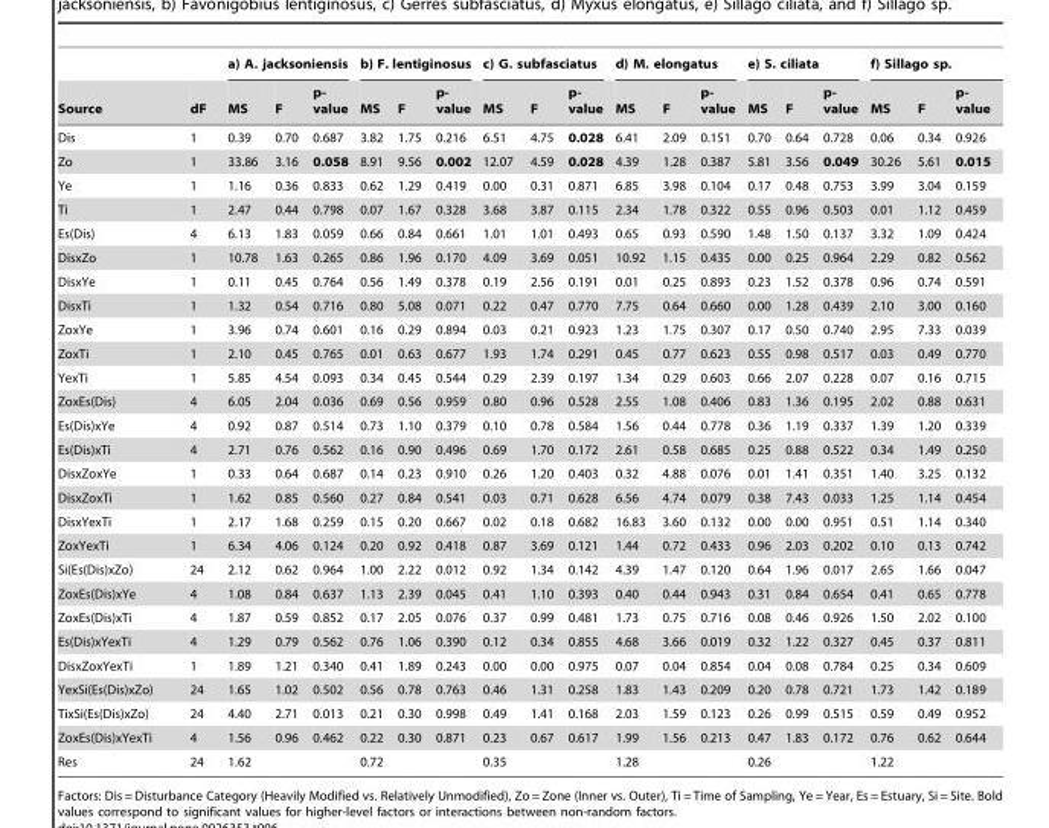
<table><thead><tr><td rowspan="2">Source</td><td rowspan="2">dF</td><td colspan="3">a) A. jacksoniensis</td><td colspan="3">b) F. lentiginosus</td><td colspan="3">c) G. subfasciatus</td><td colspan="3">d) M. elongatus</td><td colspan="3">e) S. ciliata</td><td colspan="3">f) Sillago sp.</td></tr><tr><td>MS</td><td>F</td><td>p- value</td><td>MS</td><td>F</td><td>p- value</td><td>MS</td><td>F</td><td>p- value</td><td>MS</td><td>F</td><td>p- value</td><td>MS</td><td>F</td><td>p- value</td><td>MS</td><td>F</td><td>p- value</td></tr></thead><tbody><tr><td>Dis</td><td>1</td><td>0.39</td><td>0.70</td><td>0.687</td><td>3.82</td><td>1.75</td><td>0.216</td><td>6.51</td><td>4.75</td><td>0.028</td><td>6.41</td><td>2.09</td><td>0.151</td><td>0.70</td><td>0.64</td><td>0.728</td><td>0.06</td><td>0.34</td><td>0.926</td></tr><tr><td>Zo</td><td>1</td><td>33.86</td><td>3.16</td><td>0.058</td><td>8.91</td><td>9.56</td><td>0.002</td><td>12.07</td><td>4.59</td><td>0.028</td><td>4.39</td><td>1.28</td><td>0.387</td><td>5.81</td><td>3.56</td><td>0.049</td><td>30.26</td><td>5.61</td><td>0.015</td></tr><tr><td>Ye</td><td>1</td><td>1.16</td><td>0.36</td><td>0.833</td><td>0.62</td><td>1.29</td><td>0.419</td><td>0.00</td><td>0.31</td><td>0.871</td><td>6.85</td><td>3.98</td><td>0.104</td><td>0.17</td><td>0.48</td><td>0.753</td><td>3.99</td><td>3.04</td><td>0.159</td></tr><tr><td>Ti</td><td>1</td><td>2.47</td><td>0.44</td><td>0.798</td><td>0.07</td><td>1.67</td><td>0.328</td><td>3.68</td><td>3.87</td><td>0.115</td><td>2.34</td><td>1.78</td><td>0.322</td><td>0.55</td><td>0.96</td><td>0.503</td><td>0.01</td><td>1.12</td><td>0.459</td></tr><tr><td>Es(Dis)</td><td>4</td><td>6.13</td><td>1.83</td><td>0.059</td><td>0.66</td><td>0.84</td><td>0.661</td><td>1.01</td><td>1.01</td><td>0.493</td><td>0.65</td><td>0.93</td><td>0.590</td><td>1.48</td><td>1.50</td><td>0.137</td><td>3.32</td><td>1.09</td><td>0.424</td></tr><tr><td>DisxZo</td><td>1</td><td>10.78</td><td>1.63</td><td>0.265</td><td>0.86</td><td>1.96</td><td>0.170</td><td>4.09</td><td>3.69</td><td>0.051</td><td>10.92</td><td>1.15</td><td>0.435</td><td>0.00</td><td>0.25</td><td>0.964</td><td>2.29</td><td>0.82</td><td>0.562</td></tr><tr><td>DisxYe</td><td>1</td><td>0.11</td><td>0.45</td><td>0.764</td><td>0.56</td><td>1.49</td><td>0.378</td><td>0.19</td><td>2.56</td><td>0.191</td><td>0.01</td><td>0.25</td><td>0.893</td><td>0.23</td><td>1.52</td><td>0.378</td><td>0.96</td><td>0.74</td><td>0.591</td></tr><tr><td>DisxTi</td><td>1</td><td>1.32</td><td>0.54</td><td>0.716</td><td>0.80</td><td>5.08</td><td>0.071</td><td>0.22</td><td>0.47</td><td>0.770</td><td>7.75</td><td>0.64</td><td>0.660</td><td>0.00</td><td>1.28</td><td>0.439</td><td>2.10</td><td>3.00</td><td>0.160</td></tr><tr><td>ZoxYe</td><td>1</td><td>3.96</td><td>0.74</td><td>0.601</td><td>0.16</td><td>0.29</td><td>0.894</td><td>0.03</td><td>0.21</td><td>0.923</td><td>1.23</td><td>1.75</td><td>0.307</td><td>0.17</td><td>0.50</td><td>0.740</td><td>2.95</td><td>7.33</td><td>0.039</td></tr><tr><td>ZoxTi</td><td>1</td><td>2.10</td><td>0.45</td><td>0.765</td><td>0.01</td><td>0.63</td><td>0.677</td><td>1.93</td><td>1.74</td><td>0.291</td><td>0.45</td><td>0.77</td><td>0.623</td><td>0.55</td><td>0.98</td><td>0.517</td><td>0.03</td><td>0.49</td><td>0.770</td></tr><tr><td>YexTi</td><td>1</td><td>5.85</td><td>4.54</td><td>0.093</td><td>0.34</td><td>0.45</td><td>0.544</td><td>0.29</td><td>2.39</td><td>0.197</td><td>1.34</td><td>0.29</td><td>0.603</td><td>0.66</td><td>2.07</td><td>0.228</td><td>0.07</td><td>0.16</td><td>0.715</td></tr><tr><td>ZoxEs(Dis)</td><td>4</td><td>6.05</td><td>2.04</td><td>0.036</td><td>0.69</td><td>0.56</td><td>0.959</td><td>0.80</td><td>0.96</td><td>0.528</td><td>2.55</td><td>1.08</td><td>0.406</td><td>0.83</td><td>1.36</td><td>0.195</td><td>2.02</td><td>0.88</td><td>0.631</td></tr><tr><td>Es(Dis)xYe</td><td>4</td><td>0.92</td><td>0.87</td><td>0.514</td><td>0.73</td><td>1.10</td><td>0.379</td><td>0.10</td><td>0.78</td><td>0.584</td><td>1.56</td><td>0.44</td><td>0.778</td><td>0.36</td><td>1.19</td><td>0.337</td><td>1.39</td><td>1.20</td><td>0.339</td></tr><tr><td>Es(Dis)xTi</td><td>4</td><td>2.71</td><td>0.76</td><td>0.562</td><td>0.16</td><td>0.90</td><td>0.496</td><td>0.69</td><td>1.70</td><td>0.172</td><td>2.61</td><td>0.58</td><td>0.685</td><td>0.25</td><td>0.88</td><td>0.522</td><td>0.34</td><td>1.49</td><td>0.250</td></tr><tr><td>DisxZoxYe</td><td>1</td><td>0.33</td><td>0.64</td><td>0.687</td><td>0.14</td><td>0.23</td><td>0.910</td><td>0.26</td><td>1.20</td><td>0.403</td><td>0.32</td><td>4.88</td><td>0.076</td><td>0.01</td><td>1.41</td><td>0.351</td><td>1.40</td><td>3.25</td><td>0.132</td></tr><tr><td>DisxZoxTi</td><td>1</td><td>1.62</td><td>0.85</td><td>0.560</td><td>0.27</td><td>0.84</td><td>0.541</td><td>0.03</td><td>0.71</td><td>0.628</td><td>6.56</td><td>4.74</td><td>0.079</td><td>0.38</td><td>7.43</td><td>0.033</td><td>1.25</td><td>1.14</td><td>0.454</td></tr><tr><td>DisxYexTi</td><td>1</td><td>2.17</td><td>1.68</td><td>0.259</td><td>0.15</td><td>0.20</td><td>0.667</td><td>0.02</td><td>0.18</td><td>0.682</td><td>16.83</td><td>3.60</td><td>0.132</td><td>0.00</td><td>0.00</td><td>0.951</td><td>0.51</td><td>1.14</td><td>0.340</td></tr><tr><td>ZoxYexTi</td><td>1</td><td>6.34</td><td>4.06</td><td>0.124</td><td>0.20</td><td>0.92</td><td>0.418</td><td>0.87</td><td>3.69</td><td>0.121</td><td>1.44</td><td>0.72</td><td>0.433</td><td>0.96</td><td>2.03</td><td>0.202</td><td>0.10</td><td>0.13</td><td>0.742</td></tr><tr><td>Si(Es(Dis)xZo)</td><td>24</td><td>2.12</td><td>0.62</td><td>0.964</td><td>1.00</td><td>2.22</td><td>0.012</td><td>0.92</td><td>1.34</td><td>0.142</td><td>4.39</td><td>1.47</td><td>0.120</td><td>0.64</td><td>1.96</td><td>0.017</td><td>2.65</td><td>1.66</td><td>0.047</td></tr><tr><td>ZoxEs(Dis)xYe</td><td>4</td><td>1.08</td><td>0.84</td><td>0.637</td><td>1.13</td><td>2.39</td><td>0.045</td><td>0.41</td><td>1.10</td><td>0.393</td><td>0.40</td><td>0.44</td><td>0.943</td><td>0.31</td><td>0.84</td><td>0.654</td><td>0.41</td><td>0.65</td><td>0.778</td></tr><tr><td>ZoxEs(Dis)xTi</td><td>4</td><td>1.87</td><td>0.59</td><td>0.852</td><td>0.17</td><td>2.05</td><td>0.076</td><td>0.37</td><td>0.99</td><td>0.481</td><td>1.73</td><td>0.75</td><td>0.716</td><td>0.08</td><td>0.46</td><td>0.926</td><td>1.50</td><td>2.02</td><td>0.100</td></tr><tr><td>Es(Dis)xYexTi</td><td>4</td><td>1.29</td><td>0.79</td><td>0.562</td><td>0.76</td><td>1.06</td><td>0.390</td><td>0.12</td><td>0.34</td><td>0.855</td><td>4.68</td><td>3.66</td><td>0.019</td><td>0.32</td><td>1.22</td><td>0.327</td><td>0.45</td><td>0.37</td><td>0.811</td></tr><tr><td>DisxZoxYexTi</td><td>1</td><td>1.89</td><td>1.21</td><td>0.340</td><td>0.41</td><td>1.89</td><td>0.243</td><td>0.00</td><td>0.00</td><td>0.975</td><td>0.07</td><td>0.04</td><td>0.854</td><td>0.04</td><td>0.08</td><td>0.784</td><td>0.25</td><td>0.34</td><td>0.609</td></tr><tr><td>YexSi(Es(Dis)xZo)</td><td>24</td><td>1.65</td><td>1.02</td><td>0.502</td><td>0.56</td><td>0.78</td><td>0.763</td><td>0.46</td><td>1.31</td><td>0.258</td><td>1.83</td><td>1.43</td><td>0.209</td><td>0.20</td><td>0.78</td><td>0.721</td><td>1.73</td><td>1.42</td><td>0.189</td></tr><tr><td>TixSi(Es(Dis)xZo)</td><td>24</td><td>4.40</td><td>2.71</td><td>0.013</td><td>0.21</td><td>0.30</td><td>0.998</td><td>0.49</td><td>1.41</td><td>0.168</td><td>2.03</td><td>1.59</td><td>0.123</td><td>0.26</td><td>0.99</td><td>0.515</td><td>0.59</td><td>0.49</td><td>0.952</td></tr><tr><td>ZoxEs(Dis)xYexTi</td><td>4</td><td>1.56</td><td>0.96</td><td>0.462</td><td>0.22</td><td>0.30</td><td>0.871</td><td>0.23</td><td>0.67</td><td>0.617</td><td>1.99</td><td>1.56</td><td>0.213</td><td>0.47</td><td>1.83</td><td>0.172</td><td>0.76</td><td>0.62</td><td>0.644</td></tr><tr><td>Res</td><td>24</td><td>1.62</td><td></td><td></td><td>0.72</td><td></td><td></td><td>0.35</td><td></td><td></td><td>1.28</td><td></td><td></td><td>0.26</td><td></td><td></td><td>1.22</td><td></td><td></td></tr></tbody></table>